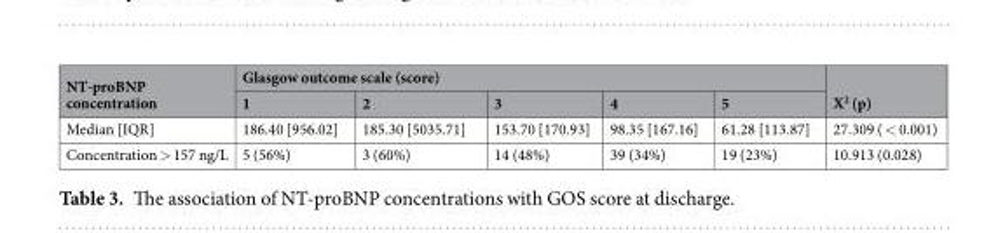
<table><thead><tr><td rowspan="2">NT-proBNP concentration</td><td colspan="5">Glasgow outcome scale (score)</td><td rowspan="2">X<sup>2</sup> (p)</td></tr><tr><td>1</td><td>2</td><td>3</td><td>4</td><td>5</td></tr></thead><tbody><tr><td>Median [IQR]</td><td>186.40 [956.02]</td><td>185.30 [5035.71]</td><td>153.70 [170.93]</td><td>98.35 [167.16]</td><td>61.28 [113.87]</td><td>27.309 ( &lt; 0.001)</td></tr><tr><td>Concentration &gt; 157 ng/L</td><td>5 (56%)</td><td>3 (60%)</td><td>14 (48%)</td><td>39 (34%)</td><td>19 (23%)</td><td>10.913 (0.028)</td></tr></tbody></table>